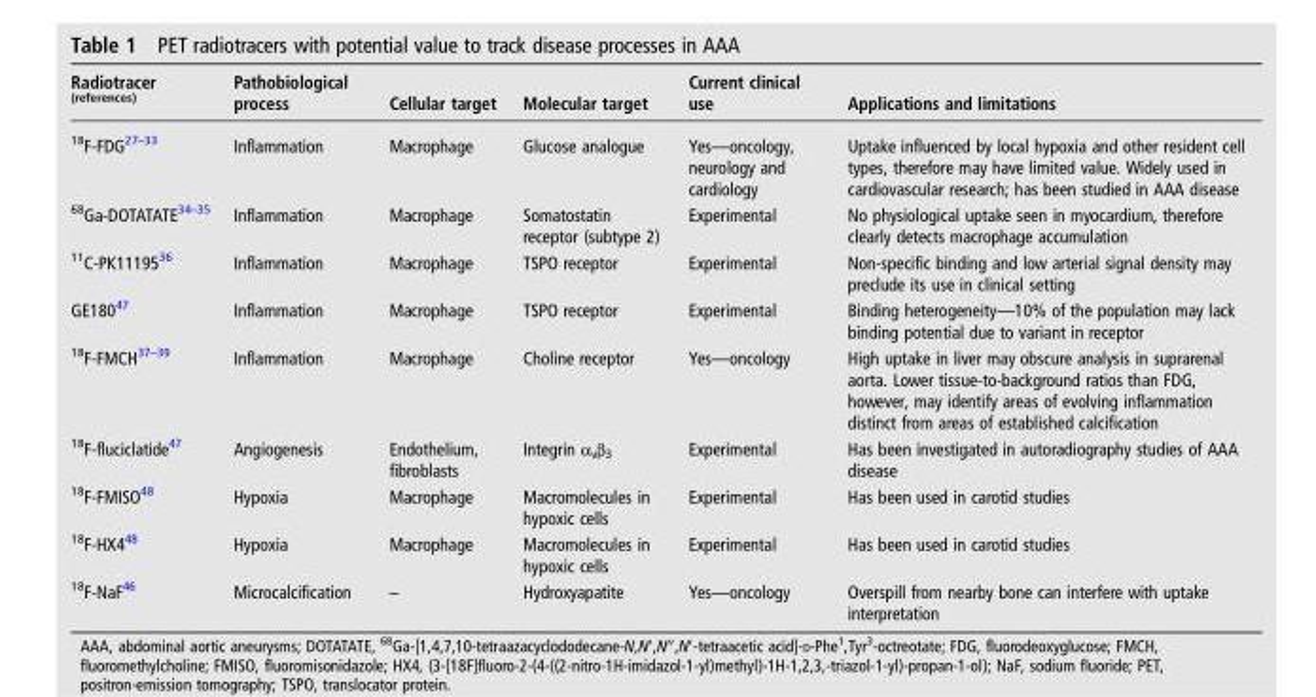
<table><thead><tr><td>Radiotracer <sup>(references)</sup></td><td>Pathobiological process</td><td>Cellular target</td><td>Molecular target</td><td>Current clinical use</td><td>Applications and limitations</td></tr></thead><tbody><tr><td><sup>18</sup>F-FDG<sup>27–33</sup></td><td>Inflammation</td><td>Macrophage</td><td>Glucose analogue</td><td>Yes—oncology, neurology and cardiology</td><td>Uptake influenced by local hypoxia and other resident cell types, therefore may have limited value. Widely used in cardiovascular research; has been studied in AAA disease</td></tr><tr><td><sup>68</sup>Ga-DOTATATE<sup>34–35</sup></td><td>Inflammation</td><td>Macrophage</td><td>Somatostatin receptor (subtype 2)</td><td>Experimental</td><td>No physiological uptake seen in myocardium, therefore clearly detects macrophage accumulation</td></tr><tr><td><sup>11</sup>C-PK11195<sup>36</sup></td><td>Inflammation</td><td>Macrophage</td><td>TSPO receptor</td><td>Experimental</td><td>Non-specific binding and low arterial signal density may preclude its use in clinical setting</td></tr><tr><td>GE180<sup>47</sup></td><td>Inflammation</td><td>Macrophage</td><td>TSPO receptor</td><td>Experimental</td><td>Binding heterogeneity—10% of the population may lack binding potential due to variant in receptor</td></tr><tr><td><sup>18</sup>F-FMCH<sup>37–39</sup></td><td>Inflammation</td><td>Macrophage</td><td>Choline receptor</td><td>Yes—oncology</td><td>High uptake in liver may obscure analysis in suprarenal aorta. Lower tissue-to-background ratios than FDG, however, may identify areas of evolving inflammation distinct from areas of established calcification</td></tr><tr><td><sup>18</sup>F-fluciclatide<sup>47</sup></td><td>Angiogenesis</td><td>Endothelium, fibroblasts</td><td>Integrin α<sub>v</sub>β<sub>3</sub></td><td>Experimental</td><td>Has been investigated in autoradiography studies of AAA disease</td></tr><tr><td><sup>18</sup>F-FMISO<sup>48</sup></td><td>Hypoxia</td><td>Macrophage</td><td>Macromolecules in hypoxic cells</td><td>Experimental</td><td>Has been used in carotid studies</td></tr><tr><td><sup>18</sup>F-HX4<sup>48</sup></td><td>Hypoxia</td><td>Macrophage</td><td>Macromolecules in hypoxic cells</td><td>Experimental</td><td>Has been used in carotid studies</td></tr><tr><td><sup>18</sup>F-NaF<sup>46</sup></td><td>Microcalcification</td><td>–</td><td>Hydroxyapatite</td><td>Yes—oncology</td><td>Overspill from nearby bone can interfere with uptake interpretation</td></tr></tbody></table>